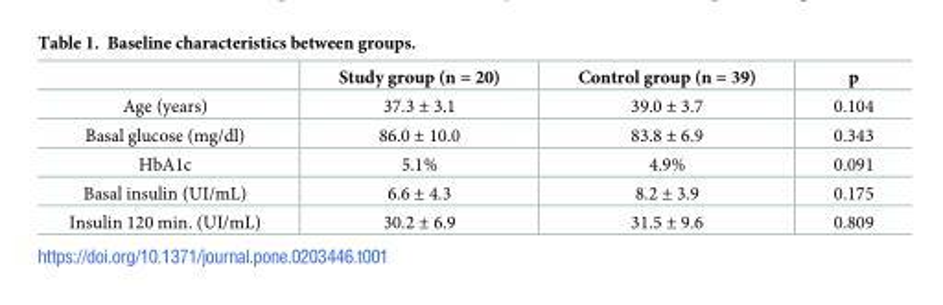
<table><thead><tr><td></td><td>Study group (n = 20)</td><td>Control group (n = 39)</td><td>p</td></tr></thead><tbody><tr><td>Age (years)</td><td>37.3 ± 3.1</td><td>39.0 ± 3.7</td><td>0.104</td></tr><tr><td>Basal glucose (mg/dl)</td><td>86.0 ± 10.0</td><td>83.8 ± 6.9</td><td>0.343</td></tr><tr><td>HbA1c</td><td>5.1%</td><td>4.9%</td><td>0.091</td></tr><tr><td>Basal insulin (UI/mL)</td><td>6.6 ± 4.3</td><td>8.2 ± 3.9</td><td>0.175</td></tr><tr><td>Insulin 120 min. (UI/mL)</td><td>30.2 ± 6.9</td><td>31.5 ± 9.6</td><td>0.809</td></tr></tbody></table>